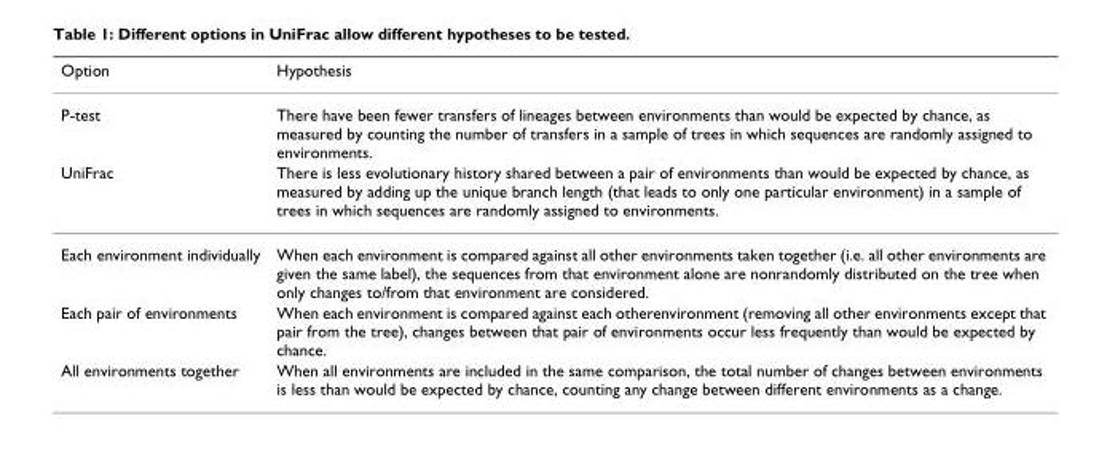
<table><thead><tr><td>Option</td><td>Hypothesis</td></tr></thead><tbody><tr><td>P-test</td><td>There have been fewer transfers of lineages between environments than would be expected by chance, as measured by counting the number of transfers in a sample of trees in which sequences are randomly assigned to environments.</td></tr><tr><td>UniFrac</td><td>There is less evolutionary history shared between a pair of environments than would be expected by chance, as measured by adding up the unique branch length (that leads to only one particular environment) in a sample of trees in which sequences are randomly assigned to environments.</td></tr><tr><td>Each environment individually</td><td>When each environment is compared against all other environments taken together (i.e. all other environments are given the same label), the sequences from that environment alone are nonrandomly distributed on the tree when only changes to/from that environment are considered.</td></tr><tr><td>Each pair of environments</td><td>When each environment is compared against each otherenvironment (removing all other environments except that pair from the tree), changes between that pair of environments occur less frequently than would be expected by chance.</td></tr><tr><td>All environments together</td><td>When all environments are included in the same comparison, the total number of changes between environments is less than would be expected by chance, counting any change between different environments as a change.</td></tr></tbody></table>